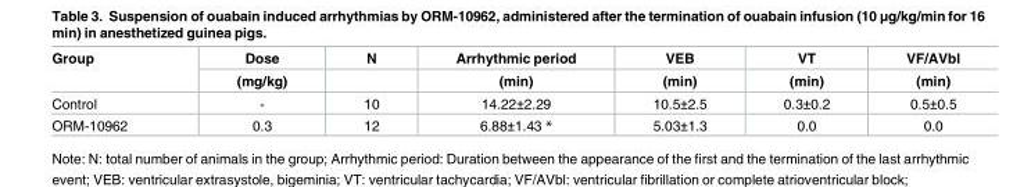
<table><thead><tr><td rowspan="2">Group</td><td rowspan="2">Dose (mg/kg)</td><td rowspan="2">N</td><td rowspan="2">Arrhythmic period (min)</td><td rowspan="2">VEB (min)</td><td rowspan="2">VT (min)</td><td rowspan="2">VF/AVbl (min)</td></tr><tr></tr></thead><tbody><tr><td>Control</td><td>-</td><td>10</td><td>14.22±2.29</td><td>10.5±2.5</td><td>0.3±0.2</td><td>0.5±0.5</td></tr><tr><td>ORM-10962</td><td>0.3</td><td>12</td><td>6.88±1.43 *</td><td>5.03±1.3</td><td>0.0</td><td>0.0</td></tr></tbody></table>